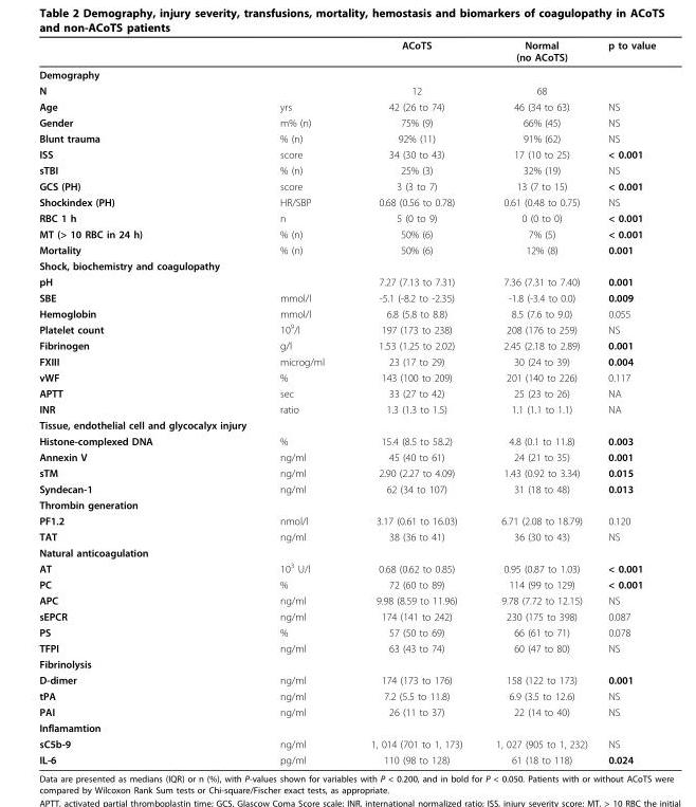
<table><thead><tr><td></td><td></td><td>ACoTS</td><td>Normal (no ACoTS)</td><td>p to value</td></tr></thead><tbody><tr><td colspan="5">Demography</td></tr><tr><td>N</td><td></td><td>12</td><td>68</td><td></td></tr><tr><td>Age</td><td>yrs</td><td>42 (26 to 74)</td><td>46 (34 to 63)</td><td>NS</td></tr><tr><td>Gender</td><td>m% (n)</td><td>75% (9)</td><td>66% (45)</td><td>NS</td></tr><tr><td>Blunt trauma</td><td>% (n)</td><td>92% (11)</td><td>91% (62)</td><td>NS</td></tr><tr><td>ISS</td><td>score</td><td>34 (30 to 43)</td><td>17 (10 to 25)</td><td>&lt; 0.001</td></tr><tr><td>sTBI</td><td>% (n)</td><td>25% (3)</td><td>32% (19)</td><td>NS</td></tr><tr><td>GCS (PH)</td><td>score</td><td>3 (3 to 7)</td><td>13 (7 to 15)</td><td>&lt; 0.001</td></tr><tr><td>Shockindex (PH)</td><td>HR/SBP</td><td>0.68 (0.56 to 0.78)</td><td>0.61 (0.48 to 0.75)</td><td>NS</td></tr><tr><td>RBC 1 h</td><td>n</td><td>5 (0 to 9)</td><td>0 (0 to 0)</td><td>&lt; 0.001</td></tr><tr><td>MT (&gt; 10 RBC in 24 h)</td><td>% (n)</td><td>50% (6)</td><td>7% (5)</td><td>&lt; 0.001</td></tr><tr><td>Mortality</td><td>% (n)</td><td>50% (6)</td><td>12% (8)</td><td>0.001</td></tr><tr><td colspan="5">Shock, biochemistry and coagulopathy</td></tr><tr><td>pH</td><td></td><td>7.27 (7.13 to 7.31)</td><td>7.36 (7.31 to 7.40)</td><td>0.001</td></tr><tr><td>SBE</td><td>mmol/l</td><td>-5.1 (-8.2 to -2.35)</td><td>-1.8 (-3.4 to 0.0)</td><td>0.009</td></tr><tr><td>Hemoglobin</td><td>mmol/l</td><td>6.8 (5.8 to 8.8)</td><td>8.5 (7.6 to 9.0)</td><td>0.055</td></tr><tr><td>Platelet count</td><td>10<sup>9</sup>/l</td><td>197 (173 to 238)</td><td>208 (176 to 259)</td><td>NS</td></tr><tr><td>Fibrinogen</td><td>g/l</td><td>1.53 (1.25 to 2.02)</td><td>2.45 (2.18 to 2.89)</td><td>0.001</td></tr><tr><td>FXIII</td><td>microg/ml</td><td>23 (17 to 29)</td><td>30 (24 to 39)</td><td>0.004</td></tr><tr><td>vWF</td><td>%</td><td>143 (100 to 209)</td><td>201 (140 to 226)</td><td>0.117</td></tr><tr><td>APTT</td><td>sec</td><td>33 (27 to 42)</td><td>25 (23 to 26)</td><td>NA</td></tr><tr><td>INR</td><td>ratio</td><td>1.3 (1.3 to 1.5)</td><td>1.1 (1.1 to 1.1)</td><td>NA</td></tr><tr><td colspan="5">Tissue, endothelial cell and glycocalyx injury</td></tr><tr><td>Histone-complexed DNA</td><td>%</td><td>15.4 (8.5 to 58.2)</td><td>4.8 (0.1 to 11.8)</td><td>0.003</td></tr><tr><td>Annexin V</td><td>ng/ml</td><td>45 (40 to 61)</td><td>24 (21 to 35)</td><td>0.001</td></tr><tr><td>sTM</td><td>ng/ml</td><td>2.90 (2.27 to 4.09)</td><td>1.43 (0.92 to 3.34)</td><td>0.015</td></tr><tr><td>Syndecan-1</td><td>ng/ml</td><td>62 (34 to 107)</td><td>31 (18 to 48)</td><td>0.013</td></tr><tr><td colspan="5">Thrombin generation</td></tr><tr><td>PF1.2</td><td>nmol/l</td><td>3.17 (0.61 to 16.03)</td><td>6.71 (2.08 to 18.79)</td><td>0.120</td></tr><tr><td>TAT</td><td>ng/ml</td><td>38 (36 to 41)</td><td>36 (30 to 43)</td><td>NS</td></tr><tr><td colspan="5">Natural anticoagulation</td></tr><tr><td>AT</td><td>10<sup>3</sup> U/l</td><td>0.68 (0.62 to 0.85)</td><td>0.95 (0.87 to 1.03)</td><td>&lt; 0.001</td></tr><tr><td>PC</td><td>%</td><td>72 (60 to 89)</td><td>114 (99 to 129)</td><td>&lt; 0.001</td></tr><tr><td>APC</td><td>ng/ml</td><td>9.98 (8.59 to 11.96)</td><td>9.78 (7.72 to 12.15)</td><td>NS</td></tr><tr><td>sEPCR</td><td>ng/ml</td><td>174 (141 to 242)</td><td>230 (175 to 398)</td><td>0.087</td></tr><tr><td>PS</td><td>%</td><td>57 (50 to 69)</td><td>66 (61 to 71)</td><td>0.078</td></tr><tr><td>TFPI</td><td>ng/ml</td><td>63 (43 to 74)</td><td>60 (47 to 80)</td><td>NS</td></tr><tr><td colspan="5">Fibrinolysis</td></tr><tr><td>D-dimer</td><td>ng/ml</td><td>174 (173 to 176)</td><td>158 (122 to 173)</td><td>0.001</td></tr><tr><td>tPA</td><td>ng/ml</td><td>7.2 (5.5 to 11.8)</td><td>6.9 (3.5 to 12.6)</td><td>NS</td></tr><tr><td>PAI</td><td>ng/ml</td><td>26 (11 to 37)</td><td>22 (14 to 40)</td><td>NS</td></tr><tr><td colspan="5">Inflamamtion</td></tr><tr><td>sC5b-9</td><td>ng/ml</td><td>1, 014 (701 to 1, 173)</td><td>1, 027 (905 to 1, 232)</td><td>NS</td></tr><tr><td>IL-6</td><td>pg/ml</td><td>110 (98 to 128)</td><td>61 (18 to 118)</td><td>0.024</td></tr></tbody></table>